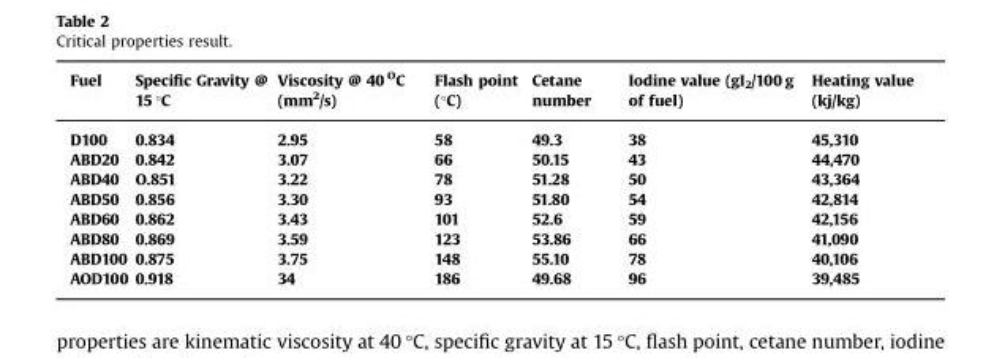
<table><thead><tr><td>Fuel</td><td>Specific Gravity @ 15 °C</td><td>Viscosity @ 40 <sup>O</sup>C (mm<sup>2</sup>/s)</td><td>Flash point (°C)</td><td>Cetane number</td><td>Iodine value (gI<sub>2</sub>/100 g of fuel)</td><td>Heating value (kj/kg)</td></tr></thead><tbody><tr><td>D100</td><td>0.834</td><td>2.95</td><td>58</td><td>49.3</td><td>38</td><td>45,310</td></tr><tr><td>ABD20</td><td>0.842</td><td>3.07</td><td>66</td><td>50.15</td><td>43</td><td>44,470</td></tr><tr><td>ABD40</td><td>O.851</td><td>3.22</td><td>78</td><td>51.28</td><td>50</td><td>43,364</td></tr><tr><td>ABD50</td><td>0.856</td><td>3.30</td><td>93</td><td>51.80</td><td>54</td><td>42,814</td></tr><tr><td>ABD60</td><td>0.862</td><td>3.43</td><td>101</td><td>52.6</td><td>59</td><td>42,156</td></tr><tr><td>ABD80</td><td>0.869</td><td>3.59</td><td>123</td><td>53.86</td><td>66</td><td>41,090</td></tr><tr><td>ABD100</td><td>0.875</td><td>3.75</td><td>148</td><td>55.10</td><td>78</td><td>40,106</td></tr><tr><td>AOD100</td><td>0.918</td><td>34</td><td>186</td><td>49.68</td><td>96</td><td>39,485</td></tr></tbody></table>